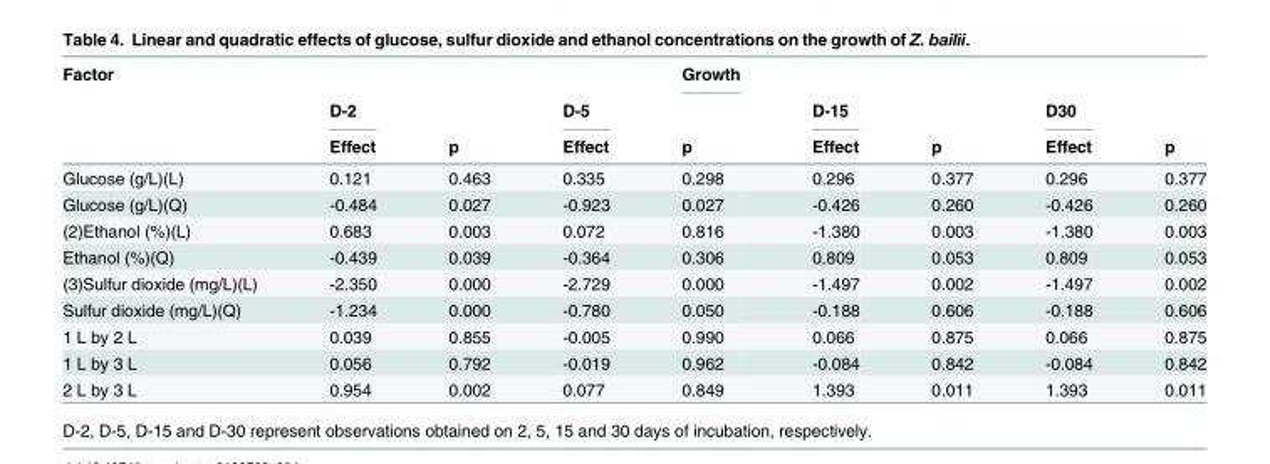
<table><thead><tr><td rowspan="3">Factor</td><td rowspan="3">D-2 Effect</td><td rowspan="3">p</td><td rowspan="3">D-5 Effect</td><td rowspan="3">Growth p</td><td rowspan="3">D-15 Effect</td><td rowspan="3">p</td><td rowspan="3">D30 Effect</td><td rowspan="3">p</td></tr><tr></tr><tr></tr></thead><tbody><tr><td>Glucose (g/L)(L)</td><td>0.121</td><td>0.463</td><td>0.335</td><td>0.298</td><td>0.296</td><td>0.377</td><td>0.296</td><td>0.377</td></tr><tr><td>Glucose (g/L)(Q)</td><td>-0.484</td><td>0.027</td><td>-0.923</td><td>0.027</td><td>-0.426</td><td>0.260</td><td>-0.426</td><td>0.260</td></tr><tr><td>(2)Ethanol (%)(L)</td><td>0.683</td><td>0.003</td><td>0.072</td><td>0.816</td><td>-1.380</td><td>0.003</td><td>-1.380</td><td>0.003</td></tr><tr><td>Ethanol (%)(Q)</td><td>-0.439</td><td>0.039</td><td>-0.364</td><td>0.306</td><td>0.809</td><td>0.053</td><td>0.809</td><td>0.053</td></tr><tr><td>(3)Sulfur dioxide (mg/L)(L)</td><td>-2.350</td><td>0.000</td><td>-2.729</td><td>0.000</td><td>-1.497</td><td>0.002</td><td>-1.497</td><td>0.002</td></tr><tr><td>Sulfur dioxide (mg/L)(Q)</td><td>-1.234</td><td>0.000</td><td>-0.780</td><td>0.050</td><td>-0.188</td><td>0.606</td><td>-0.188</td><td>0.606</td></tr><tr><td>1 L by 2 L</td><td>0.039</td><td>0.855</td><td>-0.005</td><td>0.990</td><td>0.066</td><td>0.875</td><td>0.066</td><td>0.875</td></tr><tr><td>1 L by 3 L</td><td>0.056</td><td>0.792</td><td>-0.019</td><td>0.962</td><td>-0.084</td><td>0.842</td><td>-0.084</td><td>0.842</td></tr><tr><td>2 L by 3 L</td><td>0.954</td><td>0.002</td><td>0.077</td><td>0.849</td><td>1.393</td><td>0.011</td><td>1.393</td><td>0.011</td></tr></tbody></table>